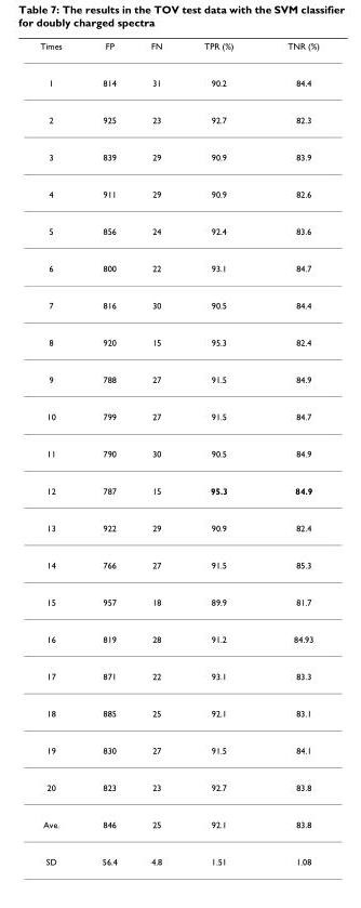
<table><thead><tr><td>Times</td><td>FP</td><td>FN</td><td>TPR (%)</td><td>TNR (%)</td></tr></thead><tbody><tr><td>1</td><td>814</td><td>31</td><td>90.2</td><td>84.4</td></tr><tr><td>2</td><td>925</td><td>23</td><td>92.7</td><td>82.3</td></tr><tr><td>3</td><td>839</td><td>29</td><td>90.9</td><td>83.9</td></tr><tr><td>4</td><td>911</td><td>29</td><td>90.9</td><td>82.6</td></tr><tr><td>5</td><td>856</td><td>24</td><td>92.4</td><td>83.6</td></tr><tr><td>6</td><td>800</td><td>22</td><td>93.1</td><td>84.7</td></tr><tr><td>7</td><td>816</td><td>30</td><td>90.5</td><td>84.4</td></tr><tr><td>8</td><td>920</td><td>15</td><td>95.3</td><td>82.4</td></tr><tr><td>9</td><td>788</td><td>27</td><td>91.5</td><td>84.9</td></tr><tr><td>10</td><td>799</td><td>27</td><td>91.5</td><td>84.7</td></tr><tr><td>11</td><td>790</td><td>30</td><td>90.5</td><td>84.9</td></tr><tr><td>12</td><td>787</td><td>15</td><td>95.3</td><td>84.9</td></tr><tr><td>13</td><td>922</td><td>29</td><td>90.9</td><td>82.4</td></tr><tr><td>14</td><td>766</td><td>27</td><td>91.5</td><td>85.3</td></tr><tr><td>15</td><td>957</td><td>18</td><td>89.9</td><td>81.7</td></tr><tr><td>16</td><td>819</td><td>28</td><td>91.2</td><td>84.93</td></tr><tr><td>17</td><td>871</td><td>22</td><td>93.1</td><td>83.3</td></tr><tr><td>18</td><td>885</td><td>25</td><td>92.1</td><td>83.1</td></tr><tr><td>19</td><td>830</td><td>27</td><td>91.5</td><td>84.1</td></tr><tr><td>20</td><td>823</td><td>23</td><td>92.7</td><td>83.8</td></tr><tr><td>Ave.</td><td>846</td><td>25</td><td>92.1</td><td>83.8</td></tr><tr><td>SD</td><td>56.4</td><td>4.8</td><td>1.51</td><td>1.08</td></tr></tbody></table>